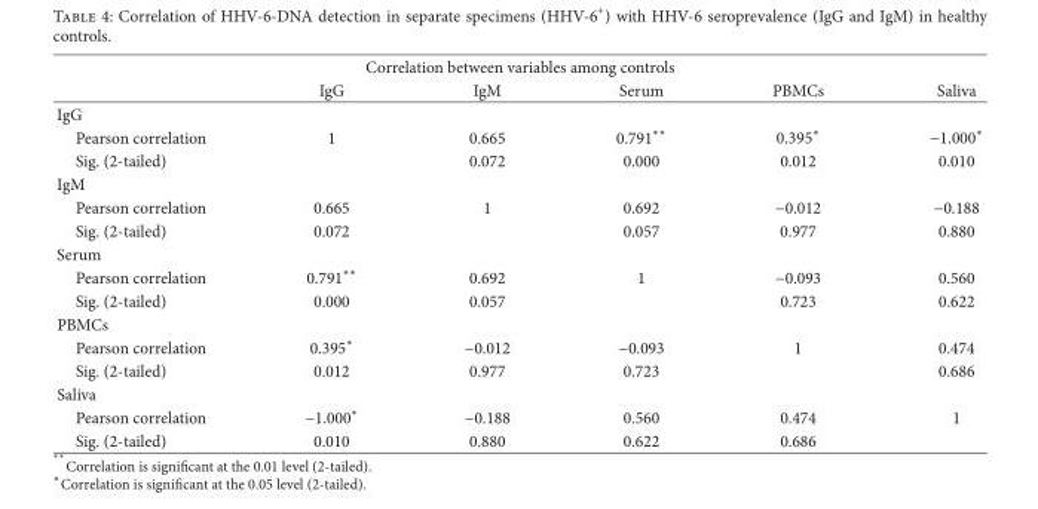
<table><thead><tr><td colspan="6">Correlation between variables among controls</td></tr><tr><td></td><td>IgG</td><td>IgM</td><td>Serum</td><td>PBMCs</td><td>Saliva</td></tr></thead><tbody><tr><td colspan="6">IgG</td></tr><tr><td>Pearson correlation</td><td>1</td><td>0.665</td><td>0.791∗∗</td><td>0.395∗</td><td>−1.000∗</td></tr><tr><td>Sig. (2-tailed)</td><td></td><td>0.072</td><td>0.000</td><td>0.012</td><td>0.010</td></tr><tr><td colspan="6">IgM</td></tr><tr><td>Pearson correlation</td><td>0.665</td><td>1</td><td>0.692</td><td>−0.012</td><td>−0.188</td></tr><tr><td>Sig. (2-tailed)</td><td>0.072</td><td></td><td>0.057</td><td>0.977</td><td>0.880</td></tr><tr><td colspan="6">Serum</td></tr><tr><td>Pearson correlation</td><td>0.791∗∗</td><td>0.692</td><td>1</td><td>−0.093</td><td>0.560</td></tr><tr><td>Sig. (2-tailed)</td><td>0.000</td><td>0.057</td><td></td><td>0.723</td><td>0.622</td></tr><tr><td colspan="6">PBMCs</td></tr><tr><td>Pearson correlation</td><td>0.395∗</td><td>−0.012</td><td>−0.093</td><td>1</td><td>0.474</td></tr><tr><td>Sig. (2-tailed)</td><td>0.012</td><td>0.977</td><td>0.723</td><td></td><td>0.686</td></tr><tr><td colspan="6">Saliva</td></tr><tr><td>Pearson correlation</td><td>−1.000∗</td><td>−0.188</td><td>0.560</td><td>0.474</td><td>1</td></tr><tr><td>Sig. (2-tailed)</td><td>0.010</td><td>0.880</td><td>0.622</td><td>0.686</td><td></td></tr></tbody></table>